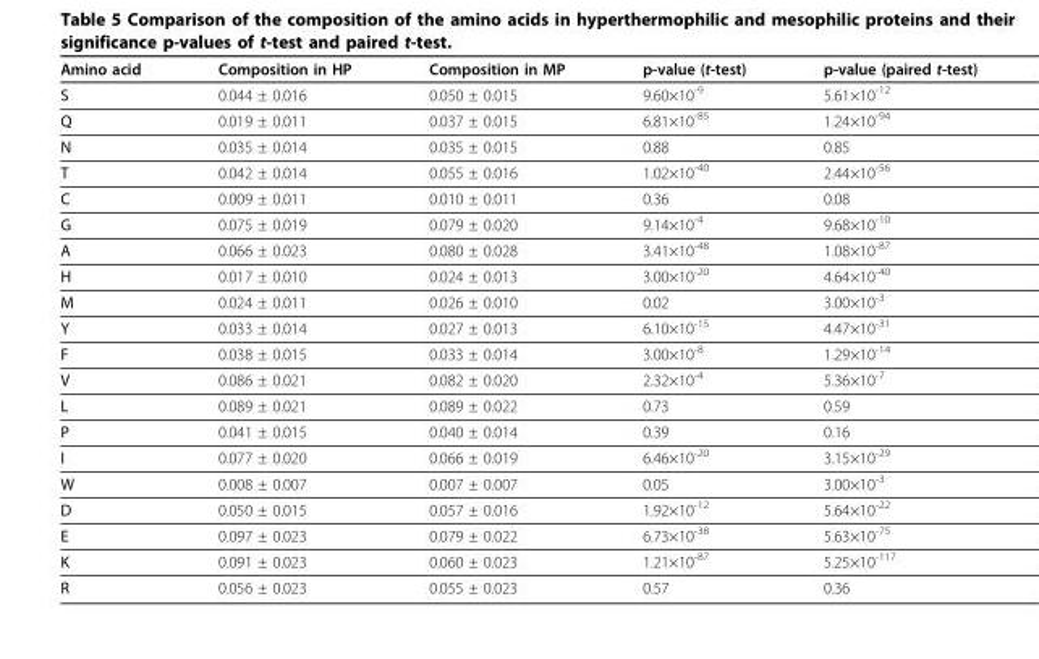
<table><thead><tr><td>Amino acid</td><td>Composition in HP</td><td>Composition in MP</td><td>p-value (t-test)</td><td>p-value (paired t-test)</td></tr></thead><tbody><tr><td>S</td><td>0.044 ± 0.016</td><td>0.050 ± 0.015</td><td>9.60×10<sup>-9</sup></td><td>5.61×10<sup>-12</sup></td></tr><tr><td>Q</td><td>0.019 ± 0.011</td><td>0.037 ± 0.015</td><td>6.81×10<sup>-85</sup></td><td>1.24×10<sup>-94</sup></td></tr><tr><td>N</td><td>0.035 ± 0.014</td><td>0.035 ± 0.015</td><td>0.88</td><td>0.85</td></tr><tr><td>T</td><td>0.042 ± 0.014</td><td>0.055 ± 0.016</td><td>1.02×10<sup>-40</sup></td><td>2.44×10<sup>-56</sup></td></tr><tr><td>C</td><td>0.009 ± 0.011</td><td>0.010 ± 0.011</td><td>0.36</td><td>0.08</td></tr><tr><td>G</td><td>0.075 ± 0.019</td><td>0.079 ± 0.020</td><td>9.14×10<sup>-4</sup></td><td>9.68×10<sup>-10</sup></td></tr><tr><td>A</td><td>0.066 ± 0.023</td><td>0.080 ± 0.028</td><td>3.41×10<sup>-48</sup></td><td>1.08×10<sup>-87</sup></td></tr><tr><td>H</td><td>0.017 ± 0.010</td><td>0.024 ± 0.013</td><td>3.00×10<sup>-20</sup></td><td>4.64×10<sup>-40</sup></td></tr><tr><td>M</td><td>0.024 ± 0.011</td><td>0.026 ± 0.010</td><td>0.02</td><td>3.00×10<sup>-3</sup></td></tr><tr><td>Y</td><td>0.033 ± 0.014</td><td>0.027 ± 0.013</td><td>6.10×10<sup>-15</sup></td><td>4.47×10<sup>-31</sup></td></tr><tr><td>F</td><td>0.038 ± 0.015</td><td>0.033 ± 0.014</td><td>3.00×10<sup>-8</sup></td><td>1.29×10<sup>-14</sup></td></tr><tr><td>V</td><td>0.086 ± 0.021</td><td>0.082 ± 0.020</td><td>2.32×10<sup>-4</sup></td><td>5.36×10<sup>-7</sup></td></tr><tr><td>L</td><td>0.089 ± 0.021</td><td>0.089 ± 0.022</td><td>0.73</td><td>0.59</td></tr><tr><td>P</td><td>0.041 ± 0.015</td><td>0.040 ± 0.014</td><td>0.39</td><td>0.16</td></tr><tr><td>I</td><td>0.077 ± 0.020</td><td>0.066 ± 0.019</td><td>6.46×10<sup>-20</sup></td><td>3.15×10<sup>-29</sup></td></tr><tr><td>W</td><td>0.008 ± 0.007</td><td>0.007 ± 0.007</td><td>0.05</td><td>3.00×10<sup>-3</sup></td></tr><tr><td>D</td><td>0.050 ± 0.015</td><td>0.057 ± 0.016</td><td>1.92×10<sup>-12</sup></td><td>5.64×10<sup>-22</sup></td></tr><tr><td>E</td><td>0.097 ± 0.023</td><td>0.079 ± 0.022</td><td>6.73×10<sup>-38</sup></td><td>5.63×10<sup>-75</sup></td></tr><tr><td>K</td><td>0.091 ± 0.023</td><td>0.060 ± 0.023</td><td>1.21×10<sup>-87</sup></td><td>5.25×10<sup>-117</sup></td></tr><tr><td>R</td><td>0.056 ± 0.023</td><td>0.055 ± 0.023</td><td>0.57</td><td>0.36</td></tr></tbody></table>